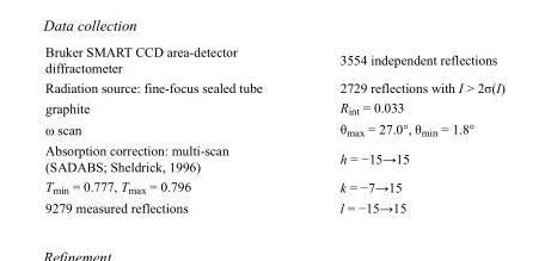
<table><tbody><tr><td>Bruker SMART CCD area-detector diffractometer</td><td>3554 independent reflections</td></tr><tr><td>Radiation source: fine-focus sealed tube</td><td>2729 reflections with I &gt; 2σ(I)</td></tr><tr><td>graphite</td><td>R<sub>int</sub> = 0.033</td></tr><tr><td>ω scan</td><td>θ<sub>max</sub> = 27.0°, θ<sub>min</sub> = 1.8°</td></tr><tr><td>Absorption correction: multi-scan (SADABS; Sheldrick, 1996)</td><td>h = −15→15</td></tr><tr><td>T<sub>min</sub> = 0.777, T<sub>max</sub> = 0.796</td><td>k = −7→15</td></tr><tr><td>9279 measured reflections</td><td>l = −15→15</td></tr></tbody></table>